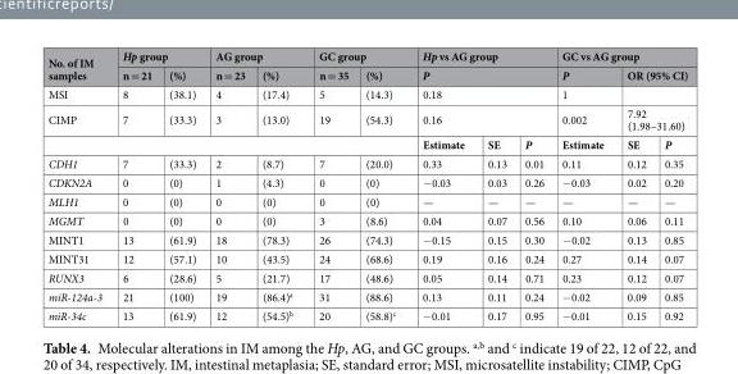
<table><thead><tr><td rowspan="4">No. of IM samples MSI CIMP</td><td colspan="2">Hp group</td><td colspan="2">AG group</td><td colspan="2">GC group</td><td rowspan="4" colspan="3">Hp vs AG group P 0.18 0.16</td><td colspan="3">GC vs AG group</td></tr><tr><td rowspan="3">n = 21 8 7</td><td rowspan="3">(%) (38.1) (33.3)</td><td rowspan="3">n = 23 4 3</td><td rowspan="3">(%) (17.4) (13.0)</td><td rowspan="3">n = 35 5 19</td><td rowspan="3">(%) (14.3) (54.3)</td><td rowspan="4">P 1 0.002 Estimate</td><td rowspan="3" colspan="2">OR (95% CI) 7.92 (1.98–31.60)</td></tr><tr></tr><tr></tr><tr><td colspan="7"></td><td>Estimate</td><td>SE</td><td>P</td><td>SE</td><td>P</td></tr></thead><tbody><tr><td>CDH1</td><td>7</td><td>(33.3)</td><td>2</td><td>(8.7)</td><td>7</td><td>(20.0)</td><td>0.33</td><td>0.13</td><td>0.01</td><td>0.11</td><td>0.12</td><td>0.35</td></tr><tr><td>CDKN2A</td><td>0</td><td>(0)</td><td>1</td><td>(4.3)</td><td>0</td><td>(0)</td><td>−0.03</td><td>0.03</td><td>0.26</td><td>−0.03</td><td>0.02</td><td>0.20</td></tr><tr><td>MLH1</td><td>0</td><td>(0)</td><td>0</td><td>(0)</td><td>0</td><td>(0)</td><td>—</td><td>—</td><td>—</td><td>—</td><td>—</td><td>—</td></tr><tr><td>MGMT</td><td>0</td><td>(0)</td><td>0</td><td>(0)</td><td>3</td><td>(8.6)</td><td>0.04</td><td>0.07</td><td>0.56</td><td>0.10</td><td>0.06</td><td>0.11</td></tr><tr><td>MINT1</td><td>13</td><td>(61.9)</td><td>18</td><td>(78.3)</td><td>26</td><td>(74.3)</td><td>−0.15</td><td>0.15</td><td>0.30</td><td>−0.02</td><td>0.13</td><td>0.85</td></tr><tr><td>MINT31</td><td>12</td><td>(57.1)</td><td>10</td><td>(43.5)</td><td>24</td><td>(68.6)</td><td>0.19</td><td>0.16</td><td>0.24</td><td>0.27</td><td>0.14</td><td>0.07</td></tr><tr><td>RUNX3</td><td>6</td><td>(28.6)</td><td>5</td><td>(21.7)</td><td>17</td><td>(48.6)</td><td>0.05</td><td>0.14</td><td>0.71</td><td>0.23</td><td>0.12</td><td>0.07</td></tr><tr><td>miR-124a-3</td><td>21</td><td>(100)</td><td>19</td><td>(86.4)<sup>a</sup></td><td>31</td><td>(88.6)</td><td>0.13</td><td>0.11</td><td>0.24</td><td>−0.02</td><td>0.09</td><td>0.85</td></tr><tr><td>miR-34c</td><td>13</td><td>(61.9)</td><td>12</td><td>(54.5)<sup>b</sup></td><td>20</td><td>(58.8)<sup>c</sup></td><td>−0.01</td><td>0.17</td><td>0.95</td><td>−0.01</td><td>0.15</td><td>0.92</td></tr></tbody></table>